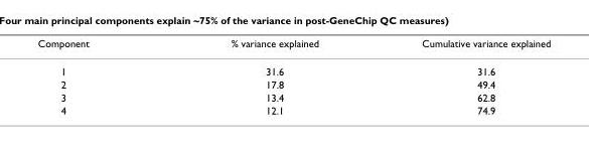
<table><thead><tr><td>Component</td><td>% variance explained</td><td>Cumulative variance explained</td></tr></thead><tbody><tr><td>1</td><td>31.6</td><td>31.6</td></tr><tr><td>2</td><td>17.8</td><td>49.4</td></tr><tr><td>3</td><td>13.4</td><td>62.8</td></tr><tr><td>4</td><td>12.1</td><td>74.9</td></tr></tbody></table>